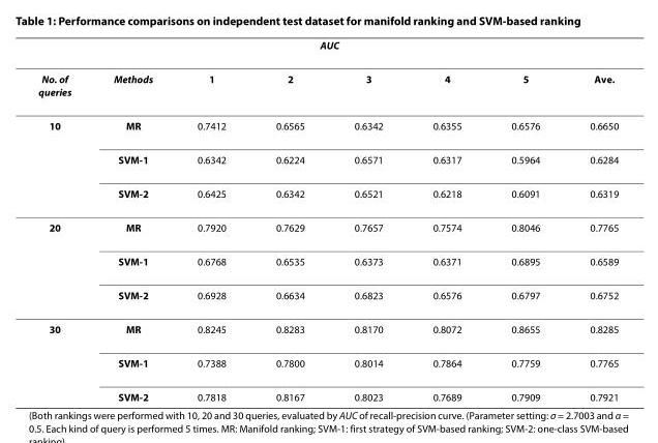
<table><thead><tr><td colspan="8">AUC</td></tr><tr><td>No. of queries</td><td>Methods</td><td>1</td><td>2</td><td>3</td><td>4</td><td>5</td><td>Ave.</td></tr></thead><tbody><tr><td rowspan="3">10</td><td>MR</td><td>0.7412</td><td>0.6565</td><td>0.6342</td><td>0.6355</td><td>0.6576</td><td>0.6650</td></tr><tr><td>SVM-1</td><td>0.6342</td><td>0.6224</td><td>0.6571</td><td>0.6317</td><td>0.5964</td><td>0.6284</td></tr><tr><td>SVM-2</td><td>0.6425</td><td>0.6342</td><td>0.6521</td><td>0.6218</td><td>0.6091</td><td>0.6319</td></tr><tr><td rowspan="3">20</td><td>MR</td><td>0.7920</td><td>0.7629</td><td>0.7657</td><td>0.7574</td><td>0.8046</td><td>0.7765</td></tr><tr><td>SVM-1</td><td>0.6768</td><td>0.6535</td><td>0.6373</td><td>0.6371</td><td>0.6895</td><td>0.6589</td></tr><tr><td>SVM-2</td><td>0.6928</td><td>0.6634</td><td>0.6823</td><td>0.6576</td><td>0.6797</td><td>0.6752</td></tr><tr><td rowspan="3">30</td><td>MR</td><td>0.8245</td><td>0.8283</td><td>0.8170</td><td>0.8072</td><td>0.8655</td><td>0.8285</td></tr><tr><td>SVM-1</td><td>0.7388</td><td>0.7800</td><td>0.8014</td><td>0.7864</td><td>0.7759</td><td>0.7765</td></tr><tr><td>SVM-2</td><td>0.7818</td><td>0.8167</td><td>0.8023</td><td>0.7689</td><td>0.7909</td><td>0.7921</td></tr></tbody></table>